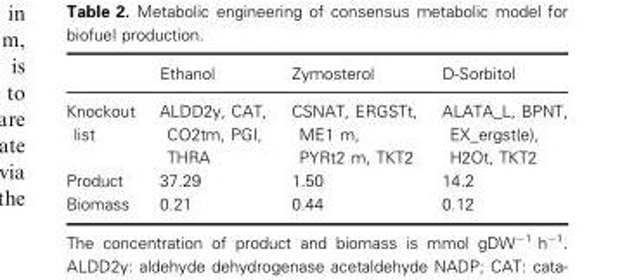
<table><thead><tr><td></td><td>Ethanol</td><td>Zymosterol</td><td>D-Sorbitol</td></tr></thead><tbody><tr><td>Knockout list</td><td>ALDD2y, CAT, CO2tm, PGI, THRA</td><td>CSNAT, ERGSTt, ME1 m, PYRt2 m, TKT2</td><td>ALATA_L, BPNT, EX_ergst(e), H2Ot, TKT2</td></tr><tr><td>Product</td><td>37.29</td><td>1.50</td><td>14.2</td></tr><tr><td>Biomass</td><td>0.21</td><td>0.44</td><td>0.12</td></tr></tbody></table>